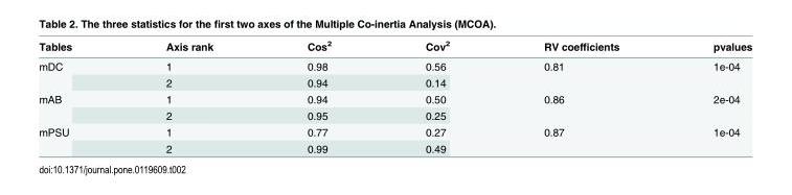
<table><thead><tr><td>Tables</td><td>Axis rank</td><td>Cos<sup>2</sup></td><td>Cov<sup>2</sup></td><td>RV coefficients</td><td>pvalues</td></tr></thead><tbody><tr><td rowspan="2">mDC</td><td>1</td><td>0.98</td><td>0.56</td><td rowspan="2">0.81</td><td rowspan="2">1e-04</td></tr><tr><td>2</td><td>0.94</td><td>0.14</td></tr><tr><td rowspan="2">mAB</td><td>1</td><td>0.94</td><td>0.50</td><td rowspan="2">0.86</td><td rowspan="2">2e-04</td></tr><tr><td>2</td><td>0.95</td><td>0.25</td></tr><tr><td rowspan="2">mPSU</td><td>1</td><td>0.77</td><td>0.27</td><td rowspan="2">0.87</td><td rowspan="2">1e-04</td></tr><tr><td>2</td><td>0.99</td><td>0.49</td></tr></tbody></table>